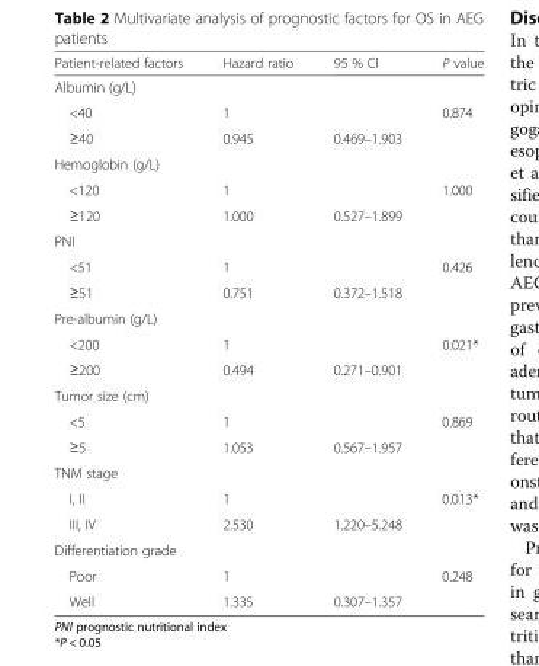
<table><thead><tr><td>Patient-related factors</td><td>Hazard ratio</td><td>95 % CI</td><td>P value</td></tr></thead><tbody><tr><td colspan="4">Albumin (g/L)</td></tr><tr><td>&lt;40</td><td>1</td><td></td><td>0.874</td></tr><tr><td>≥40</td><td>0.945</td><td>0.469–1.903</td><td></td></tr><tr><td colspan="4">Hemoglobin (g/L)</td></tr><tr><td>&lt;120</td><td>1</td><td></td><td>1.000</td></tr><tr><td>≥120</td><td>1.000</td><td>0.527–1.899</td><td></td></tr><tr><td colspan="4">PNI</td></tr><tr><td>&lt;51</td><td>1</td><td></td><td>0.426</td></tr><tr><td>≥51</td><td>0.751</td><td>0.372–1.518</td><td></td></tr><tr><td colspan="4">Pre-albumin (g/L)</td></tr><tr><td>&lt;200</td><td>1</td><td></td><td>0.021*</td></tr><tr><td>≥200</td><td>0.494</td><td>0.271–0.901</td><td></td></tr><tr><td colspan="4">Tumor size (cm)</td></tr><tr><td>&lt;5</td><td>1</td><td></td><td>0.869</td></tr><tr><td>≥5</td><td>1.053</td><td>0.567–1.957</td><td></td></tr><tr><td colspan="4">TNM stage</td></tr><tr><td>I, II</td><td>1</td><td></td><td>0.013*</td></tr><tr><td>III, IV</td><td>2.530</td><td>1.220–5.248</td><td></td></tr><tr><td colspan="4">Differentiation grade</td></tr><tr><td>Poor</td><td>1</td><td></td><td>0.248</td></tr><tr><td>Well</td><td>1.335</td><td>0.307–1.357</td><td></td></tr></tbody></table>